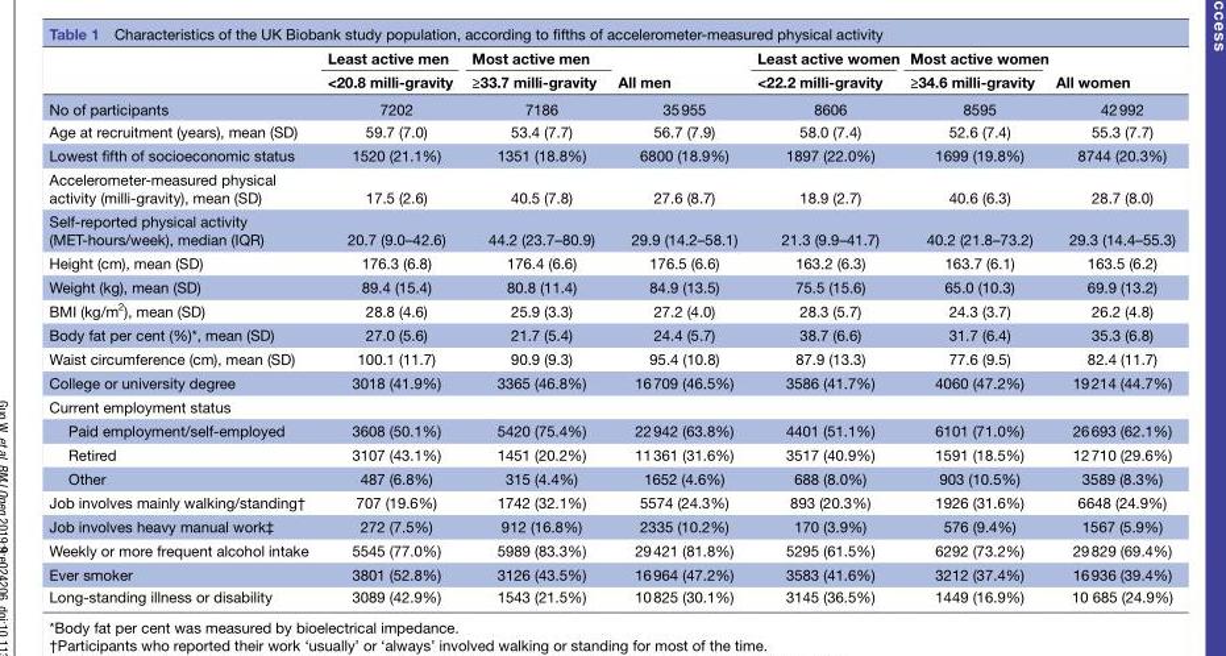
<table><thead><tr><td rowspan="2"></td><td rowspan="2">Least active men &lt;20.8 milli-gravity</td><td rowspan="2">Most active men ≥33.7 milli-gravity</td><td rowspan="2">All men</td><td rowspan="2">Least active women &lt;22.2 milli-gravity</td><td rowspan="2">Most active women ≥34.6 milli-gravity</td><td rowspan="2">All women</td></tr><tr></tr></thead><tbody><tr><td>No of participants</td><td>7202</td><td>7186</td><td>35 955</td><td>8606</td><td>8595</td><td>42 992</td></tr><tr><td>Age at recruitment (years), mean (SD)</td><td>59.7 (7.0)</td><td>53.4 (7.7)</td><td>56.7 (7.9)</td><td>58.0 (7.4)</td><td>52.6 (7.4)</td><td>55.3 (7.7)</td></tr><tr><td>Lowest fifth of socioeconomic status</td><td>1520 (21.1%)</td><td>1351 (18.8%)</td><td>6800 (18.9%)</td><td>1897 (22.0%)</td><td>1699 (19.8%)</td><td>8744 (20.3%)</td></tr><tr><td>Accelerometer-measured physical activity (milli-gravity), mean (SD)</td><td>17.5 (2.6)</td><td>40.5 (7.8)</td><td>27.6 (8.7)</td><td>18.9 (2.7)</td><td>40.6 (6.3)</td><td>28.7 (8.0)</td></tr><tr><td>Self-reported physical activity (MET-hours/week), median (IQR)</td><td>20.7 (9.0–42.6)</td><td>44.2 (23.7–80.9)</td><td>29.9 (14.2–58.1)</td><td>21.3 (9.9–41.7)</td><td>40.2 (21.8–73.2)</td><td>29.3 (14.4–55.3)</td></tr><tr><td>Height (cm), mean (SD)</td><td>176.3 (6.8)</td><td>176.4 (6.6)</td><td>176.5 (6.6)</td><td>163.2 (6.3)</td><td>163.7 (6.1)</td><td>163.5 (6.2)</td></tr><tr><td>Weight (kg), mean (SD)</td><td>89.4 (15.4)</td><td>80.8 (11.4)</td><td>84.9 (13.5)</td><td>75.5 (15.6)</td><td>65.0 (10.3)</td><td>69.9 (13.2)</td></tr><tr><td>BMI (kg/m<sup>2</sup>), mean (SD)</td><td>28.8 (4.6)</td><td>25.9 (3.3)</td><td>27.2 (4.0)</td><td>28.3 (5.7)</td><td>24.3 (3.7)</td><td>26.2 (4.8)</td></tr><tr><td>Body fat per cent (%)*, mean (SD)</td><td>27.0 (5.6)</td><td>21.7 (5.4)</td><td>24.4 (5.7)</td><td>38.7 (6.6)</td><td>31.7 (6.4)</td><td>35.3 (6.8)</td></tr><tr><td>Waist circumference (cm), mean (SD)</td><td>100.1 (11.7)</td><td>90.9 (9.3)</td><td>95.4 (10.8)</td><td>87.9 (13.3)</td><td>77.6 (9.5)</td><td>82.4 (11.7)</td></tr><tr><td>College or university degree</td><td>3018 (41.9%)</td><td>3365 (46.8%)</td><td>16 709 (46.5%)</td><td>3586 (41.7%)</td><td>4060 (47.2%)</td><td>19 214 (44.7%)</td></tr><tr><td colspan="7">Current employment status</td></tr><tr><td>Paid employment/self-employed</td><td>3608 (50.1%)</td><td>5420 (75.4%)</td><td>22 942 (63.8%)</td><td>4401 (51.1%)</td><td>6101 (71.0%)</td><td>26 693 (62.1%)</td></tr><tr><td>Retired</td><td>3107 (43.1%)</td><td>1451 (20.2%)</td><td>11 361 (31.6%)</td><td>3517 (40.9%)</td><td>1591 (18.5%)</td><td>12 710 (29.6%)</td></tr><tr><td>Other</td><td>487 (6.8%)</td><td>315 (4.4%)</td><td>1652 (4.6%)</td><td>688 (8.0%)</td><td>903 (10.5%)</td><td>3589 (8.3%)</td></tr><tr><td>Job involves mainly walking/standing†</td><td>707 (19.6%)</td><td>1742 (32.1%)</td><td>5574 (24.3%)</td><td>893 (20.3%)</td><td>1926 (31.6%)</td><td>6648 (24.9%)</td></tr><tr><td>Job involves heavy manual work‡</td><td>272 (7.5%)</td><td>912 (16.8%)</td><td>2335 (10.2%)</td><td>170 (3.9%)</td><td>576 (9.4%)</td><td>1567 (5.9%)</td></tr><tr><td>Weekly or more frequent alcohol intake</td><td>5545 (77.0%)</td><td>5989 (83.3%)</td><td>29 421 (81.8%)</td><td>5295 (61.5%)</td><td>6292 (73.2%)</td><td>29 829 (69.4%)</td></tr><tr><td>Ever smoker</td><td>3801 (52.8%)</td><td>3126 (43.5%)</td><td>16 964 (47.2%)</td><td>3583 (41.6%)</td><td>3212 (37.4%)</td><td>16 936 (39.4%)</td></tr><tr><td>Long-standing illness or disability</td><td>3089 (42.9%)</td><td>1543 (21.5%)</td><td>10 825 (30.1%)</td><td>3145 (36.5%)</td><td>1449 (16.9%)</td><td>10 685 (24.9%)</td></tr></tbody></table>